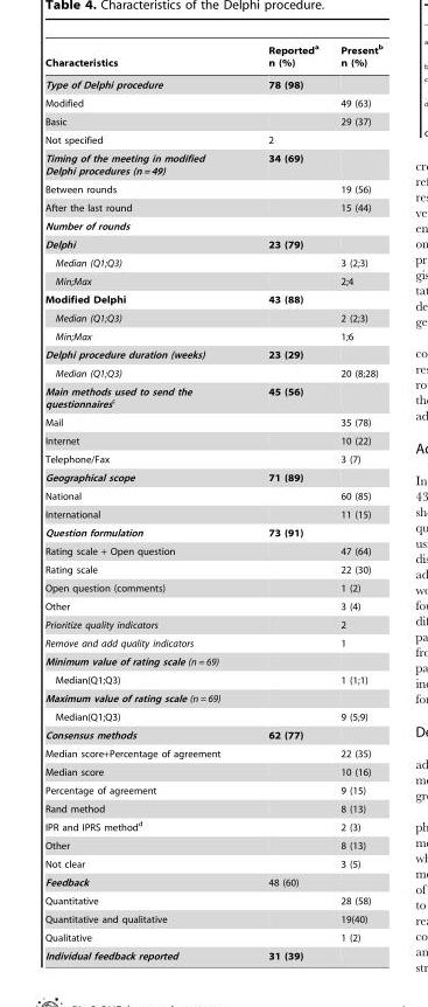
<table><thead><tr><td>Characteristics</td><td>Reported<sup>a</sup> n (%)</td><td>Present<sup>b</sup> n (%)</td></tr></thead><tbody><tr><td>Type of Delphi procedure</td><td>78 (98)</td><td></td></tr><tr><td>Modified</td><td></td><td>49 (63)</td></tr><tr><td>Basic</td><td></td><td>29 (37)</td></tr><tr><td>Not specified</td><td>2</td><td></td></tr><tr><td>Timing of the meeting in modified Delphi procedures (n = 49)</td><td>34 (69)</td><td></td></tr><tr><td>Between rounds</td><td></td><td>19 (56)</td></tr><tr><td>After the last round</td><td></td><td>15 (44)</td></tr><tr><td colspan="3">Number of rounds</td></tr><tr><td>Delphi</td><td>23 (79)</td><td></td></tr><tr><td>Median (Q1;Q3)</td><td></td><td>3 (2;3)</td></tr><tr><td>Min;Max</td><td></td><td>2;4</td></tr><tr><td>Modified Delphi</td><td>43 (88)</td><td></td></tr><tr><td>Median (Q1;Q3)</td><td></td><td>2 (2;3)</td></tr><tr><td>Min;Max</td><td></td><td>1;6</td></tr><tr><td>Delphi procedure duration (weeks)</td><td>23 (29)</td><td></td></tr><tr><td>Median (Q1;Q3)</td><td></td><td>20 (8;28)</td></tr><tr><td>Main methods used to send the questionnairesc</td><td>45 (56)</td><td></td></tr><tr><td>Mail</td><td></td><td>35 (78)</td></tr><tr><td>Internet</td><td></td><td>10 (22)</td></tr><tr><td>Telephone/Fax</td><td></td><td>3 (7)</td></tr><tr><td>Geographical scope</td><td>71 (89)</td><td></td></tr><tr><td>National</td><td></td><td>60 (85)</td></tr><tr><td>International</td><td></td><td>11 (15)</td></tr><tr><td>Question formulation</td><td>73 (91)</td><td></td></tr><tr><td>Rating scale + Open question</td><td></td><td>47 (64)</td></tr><tr><td>Rating scale</td><td></td><td>22 (30)</td></tr><tr><td>Open question (comments)</td><td></td><td>1 (2)</td></tr><tr><td>Other</td><td></td><td>3 (4)</td></tr><tr><td>Prioritize quality indicators</td><td></td><td>2</td></tr><tr><td>Remove and add quality indicators</td><td></td><td>1</td></tr><tr><td colspan="3">Minimum value of rating scale (n = 69)</td></tr><tr><td>Median(Q1;Q3)</td><td></td><td>1 (1;1)</td></tr><tr><td colspan="3">Maximum value of rating scale (n = 69)</td></tr><tr><td>Median(Q1;Q3)</td><td></td><td>9 (5;9)</td></tr><tr><td>Consensus methods</td><td>62 (77)</td><td></td></tr><tr><td>Median score+Percentage of agreement</td><td></td><td>22 (35)</td></tr><tr><td>Median score</td><td></td><td>10 (16)</td></tr><tr><td>Percentage of agreement</td><td></td><td>9 (15)</td></tr><tr><td>Rand method</td><td></td><td>8 (13)</td></tr><tr><td>IPR and IPRS method<sup>d</sup></td><td></td><td>2 (3)</td></tr><tr><td>Other</td><td></td><td>8 (13)</td></tr><tr><td>Not clear</td><td></td><td>3 (5)</td></tr><tr><td>Feedback</td><td>48 (60)</td><td></td></tr><tr><td>Quantitative</td><td></td><td>28 (58)</td></tr><tr><td>Quantitative and qualitative</td><td></td><td>19(40)</td></tr><tr><td>Qualitative</td><td></td><td>1 (2)</td></tr><tr><td>Individual feedback reported</td><td>31 (39)</td><td></td></tr></tbody></table>